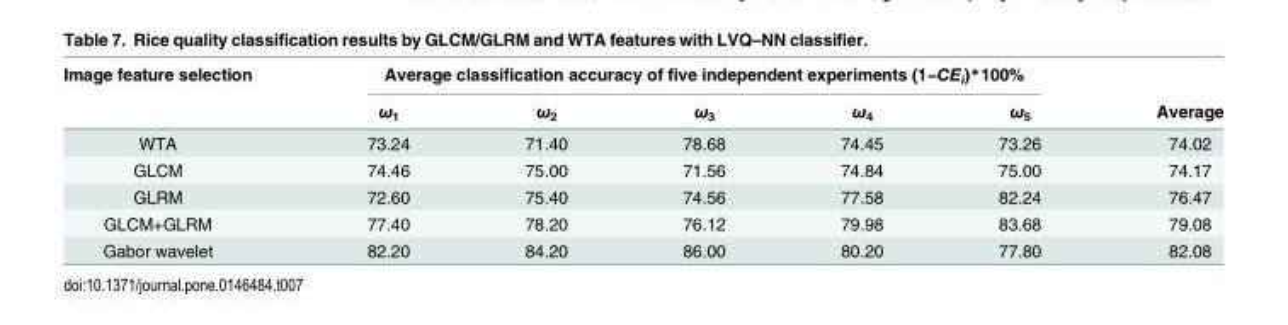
<table><thead><tr><td rowspan="2">Image feature selection</td><td colspan="5">Average classification accuracy of five independent experiments (1−CE<sub>i</sub>)*100%</td><td rowspan="2">Average</td></tr><tr><td>ω<sub>1</sub></td><td>ω<sub>2</sub></td><td>ω<sub>3</sub></td><td>ω<sub>4</sub></td><td>ω<sub>5</sub></td></tr></thead><tbody><tr><td>WTA</td><td>73.24</td><td>71.40</td><td>78.68</td><td>74.45</td><td>73.26</td><td>74.02</td></tr><tr><td>GLCM</td><td>74.46</td><td>75.00</td><td>71.56</td><td>74.84</td><td>75.00</td><td>74.17</td></tr><tr><td>GLRM</td><td>72.60</td><td>75.40</td><td>74.56</td><td>77.58</td><td>82.24</td><td>76.47</td></tr><tr><td>GLCM+GLRM</td><td>77.40</td><td>78.20</td><td>76.12</td><td>79.98</td><td>83.68</td><td>79.08</td></tr><tr><td>Gabor wavelet</td><td>82.20</td><td>84.20</td><td>86.00</td><td>80.20</td><td>77.80</td><td>82.08</td></tr></tbody></table>